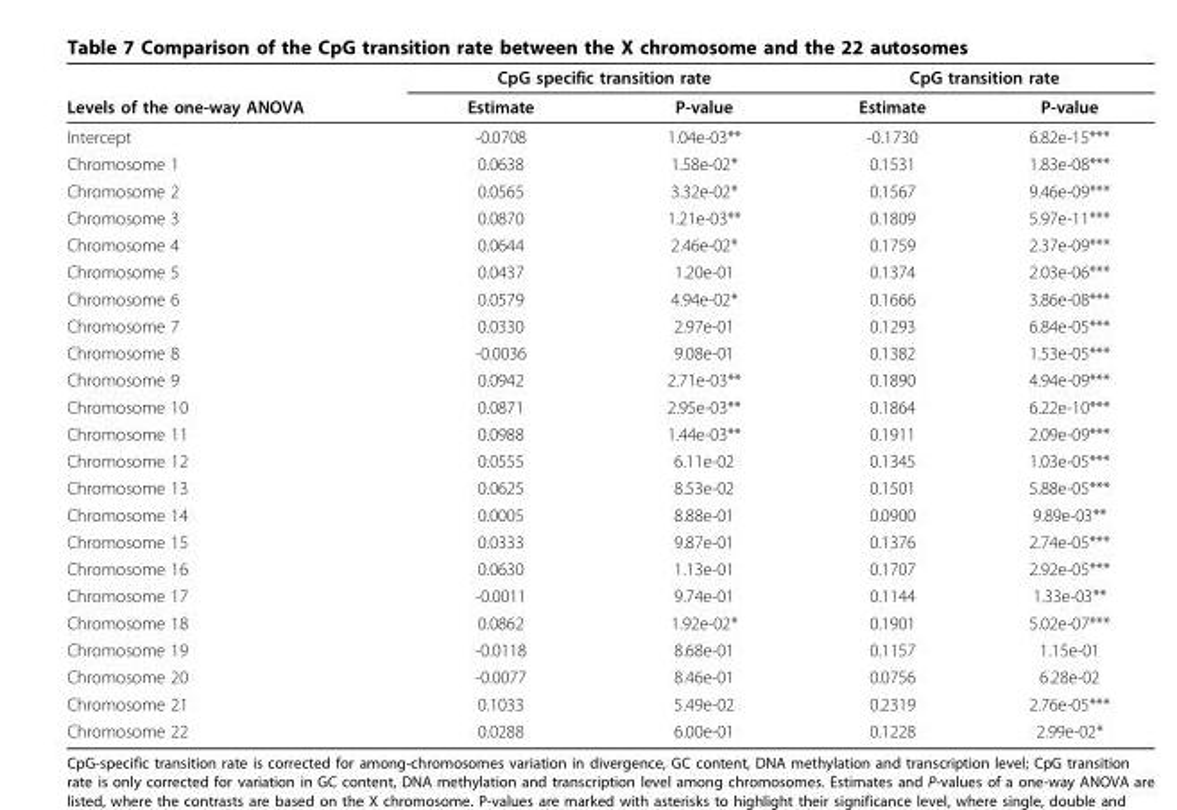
<table><thead><tr><td rowspan="2">Levels of the one-way ANOVA</td><td colspan="2">CpG specific transition rate</td><td colspan="2">CpG transition rate</td></tr><tr><td>Estimate</td><td>P-value</td><td>Estimate</td><td>P-value</td></tr></thead><tbody><tr><td>Intercept</td><td>-0.0708</td><td>1.04e-03**</td><td>-0.1730</td><td>6.82e-15***</td></tr><tr><td>Chromosome 1</td><td>0.0638</td><td>1.58e-02*</td><td>0.1531</td><td>1.83e-08***</td></tr><tr><td>Chromosome 2</td><td>0.0565</td><td>3.32e-02*</td><td>0.1567</td><td>9.46e-09***</td></tr><tr><td>Chromosome 3</td><td>0.0870</td><td>1.21e-03**</td><td>0.1809</td><td>5.97e-11***</td></tr><tr><td>Chromosome 4</td><td>0.0644</td><td>2.46e-02*</td><td>0.1759</td><td>2.37e-09***</td></tr><tr><td>Chromosome 5</td><td>0.0437</td><td>1.20e-01</td><td>0.1374</td><td>2.03e-06***</td></tr><tr><td>Chromosome 6</td><td>0.0579</td><td>4.94e-02*</td><td>0.1666</td><td>3.86e-08***</td></tr><tr><td>Chromosome 7</td><td>0.0330</td><td>2.97e-01</td><td>0.1293</td><td>6.84e-05***</td></tr><tr><td>Chromosome 8</td><td>-0.0036</td><td>9.08e-01</td><td>0.1382</td><td>1.53e-05***</td></tr><tr><td>Chromosome 9</td><td>0.0942</td><td>2.71e-03**</td><td>0.1890</td><td>4.94e-09***</td></tr><tr><td>Chromosome 10</td><td>0.0871</td><td>2.95e-03**</td><td>0.1864</td><td>6.22e-10***</td></tr><tr><td>Chromosome 11</td><td>0.0988</td><td>1.44e-03**</td><td>0.1911</td><td>2.09e-09***</td></tr><tr><td>Chromosome 12</td><td>0.0555</td><td>6.11e-02</td><td>0.1345</td><td>1.03e-05***</td></tr><tr><td>Chromosome 13</td><td>0.0625</td><td>8.53e-02</td><td>0.1501</td><td>5.88e-05***</td></tr><tr><td>Chromosome 14</td><td>0.0005</td><td>8.88e-01</td><td>0.0900</td><td>9.89e-03**</td></tr><tr><td>Chromosome 15</td><td>0.0333</td><td>9.87e-01</td><td>0.1376</td><td>2.74e-05***</td></tr><tr><td>Chromosome 16</td><td>0.0630</td><td>1.13e-01</td><td>0.1707</td><td>2.92e-05***</td></tr><tr><td>Chromosome 17</td><td>-0.0011</td><td>9.74e-01</td><td>0.1144</td><td>1.33e-03**</td></tr><tr><td>Chromosome 18</td><td>0.0862</td><td>1.92e-02*</td><td>0.1901</td><td>5.02e-07***</td></tr><tr><td>Chromosome 19</td><td>-0.0118</td><td>8.68e-01</td><td>0.1157</td><td>1.15e-01</td></tr><tr><td>Chromosome 20</td><td>-0.0077</td><td>8.46e-01</td><td>0.0756</td><td>6.28e-02</td></tr><tr><td>Chromosome 21</td><td>0.1033</td><td>5.49e-02</td><td>0.2319</td><td>2.76e-05***</td></tr><tr><td>Chromosome 22</td><td>0.0288</td><td>6.00e-01</td><td>0.1228</td><td>2.99e-02*</td></tr></tbody></table>